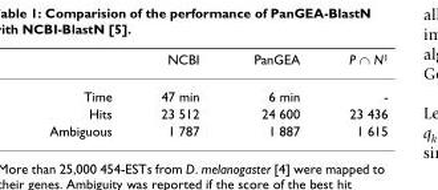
<table><thead><tr><td></td><td>NCBI</td><td>PanGEA</td><td>P ∩ N<sup>1</sup></td></tr></thead><tbody><tr><td>Time</td><td>47 min</td><td>6 min</td><td>-</td></tr><tr><td>Hits</td><td>23 512</td><td>24 600</td><td>23 436</td></tr><tr><td>Ambiguous</td><td>1 787</td><td>1 887</td><td>1 615</td></tr></tbody></table>